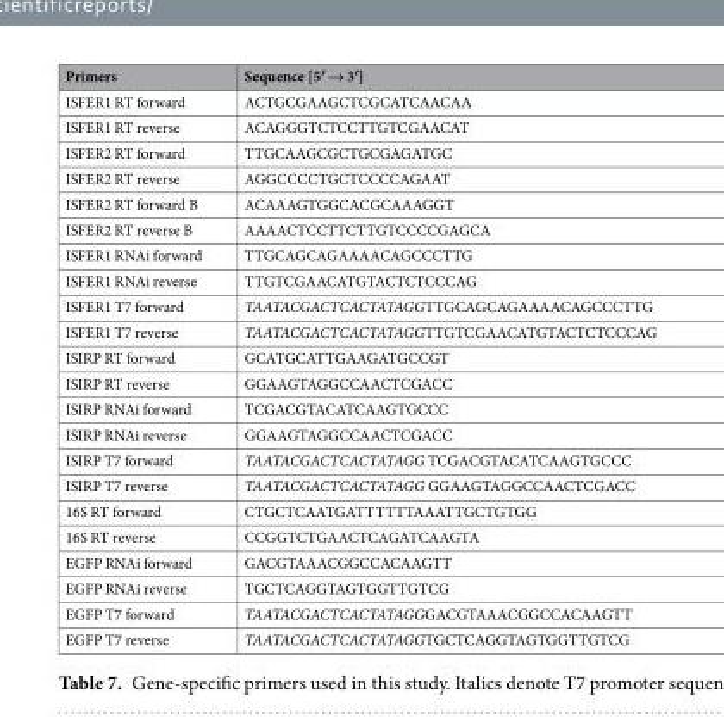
<table><thead><tr><td>Primers</td><td>Sequence [5′ → 3′]</td></tr></thead><tbody><tr><td>ISFER1 RT forward</td><td>ACTGCGAAGCTCGCATCAACAA</td></tr><tr><td>ISFER1 RT reverse</td><td>ACAGGGTCTCCTTGTCGAACAT</td></tr><tr><td>ISFER2 RT forward</td><td>TTGCAAGCGCTGCGAGATGC</td></tr><tr><td>ISFER2 RT reverse</td><td>AGGCCCCTGCTCCCCAGAAT</td></tr><tr><td>ISFER2 RT forward B</td><td>ACAAAGTGGCACGCAAAGGT</td></tr><tr><td>ISFER2 RT reverse B</td><td>AAAACTCCTTCTTGTCCCCGAGCA</td></tr><tr><td>ISFER1 RNAi forward</td><td>TTGCAGCAGAAAACAGCCCTTG</td></tr><tr><td>ISFER1 RNAi reverse</td><td>TTGTCGAACATGTACTCTCCCAG</td></tr><tr><td>ISFER1 T7 forward</td><td>TAATACGACTCACTATAGGTTGCAGCAGAAAACAGCCCTTG</td></tr><tr><td>ISFER1 T7 reverse</td><td>TAATACGACTCACTATAGGTTGTCGAACATGTACTCTCCCAG</td></tr><tr><td>ISIRP RT forward</td><td>GCATGCATTGAAGATGCCGT</td></tr><tr><td>ISIRP RT reverse</td><td>GGAAGTAGGCCAACTCGACC</td></tr><tr><td>ISIRP RNAi forward</td><td>TCGACGTACATCAAGTGCCC</td></tr><tr><td>ISIRP RNAi reverse</td><td>GGAAGTAGGCCAACTCGACC</td></tr><tr><td>ISIRP T7 forward</td><td>TAATACGACTCACTATAGG TCGACGTACATCAAGTGCCC</td></tr><tr><td>ISIRP T7 reverse</td><td>TAATACGACTCACTATAGG GGAAGTAGGCCAACTCGACC</td></tr><tr><td>16S RT forward</td><td>CTGCTCAATGATTTTTTAAATTGCTGTGG</td></tr><tr><td>16S RT reverse</td><td>CCGGTCTGAACTCAGATCAAGTA</td></tr><tr><td>EGFP RNAi forward</td><td>GACGTAAACGGCCACAAGTT</td></tr><tr><td>EGFP RNAi reverse</td><td>TGCTCAGGTAGTGGTTGTCG</td></tr><tr><td>EGFP T7 forward</td><td>TAATACGACTCACTATAGGGACGTAAACGGCCACAAGTT</td></tr><tr><td>EGFP T7 reverse</td><td>TAATACGACTCACTATAGGTGCTCAGGTAGTGGTTGTCG</td></tr></tbody></table>